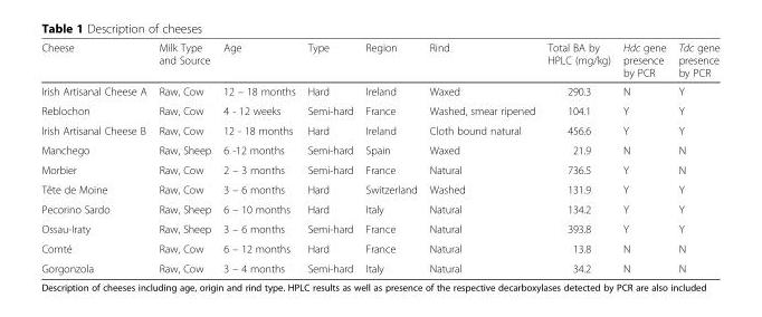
<table><thead><tr><td>Cheese</td><td>Milk Type and Source</td><td>Age</td><td>Type</td><td>Region</td><td>Rind</td><td>Total BA by HPLC (mg/kg)</td><td>Hdc gene presence by PCR</td><td>Tdc gene presence by PCR</td></tr></thead><tbody><tr><td>Irish Artisanal Cheese A</td><td>Raw, Cow</td><td>12 – 18 months</td><td>Hard</td><td>Ireland</td><td>Waxed</td><td>290.3</td><td>N</td><td>Y</td></tr><tr><td>Reblochon</td><td>Raw, Cow</td><td>4 - 12 weeks</td><td>Semi-hard</td><td>France</td><td>Washed, smear ripened</td><td>104.1</td><td>Y</td><td>Y</td></tr><tr><td>Irish Artisanal Cheese B</td><td>Raw, Cow</td><td>12 - 18 months</td><td>Hard</td><td>Ireland</td><td>Cloth bound natural</td><td>456.6</td><td>Y</td><td>Y</td></tr><tr><td>Manchego</td><td>Raw, Sheep</td><td>6 -12 months</td><td>Semi-hard</td><td>Spain</td><td>Waxed</td><td>21.9</td><td>N</td><td>N</td></tr><tr><td>Morbier</td><td>Raw, Cow</td><td>2 – 3 months</td><td>Semi-hard</td><td>France</td><td>Natural</td><td>736.5</td><td>Y</td><td>N</td></tr><tr><td>Tête de Moine</td><td>Raw, Cow</td><td>3 – 6 months</td><td>Hard</td><td>Switzerland</td><td>Washed</td><td>131.9</td><td>Y</td><td>Y</td></tr><tr><td>Pecorino Sardo</td><td>Raw, Sheep</td><td>6 – 10 months</td><td>Hard</td><td>Italy</td><td>Natural</td><td>134.2</td><td>Y</td><td>Y</td></tr><tr><td>Ossau-Iraty</td><td>Raw, Sheep</td><td>3 – 6 months</td><td>Semi-hard</td><td>France</td><td>Natural</td><td>393.8</td><td>Y</td><td>Y</td></tr><tr><td>Comté</td><td>Raw, Cow</td><td>6 – 12 months</td><td>Hard</td><td>France</td><td>Natural</td><td>13.8</td><td>N</td><td>N</td></tr><tr><td>Gorgonzola</td><td>Raw, Cow</td><td>3 – 4 months</td><td>Semi-hard</td><td>Italy</td><td>Natural</td><td>34.2</td><td>N</td><td>N</td></tr></tbody></table>